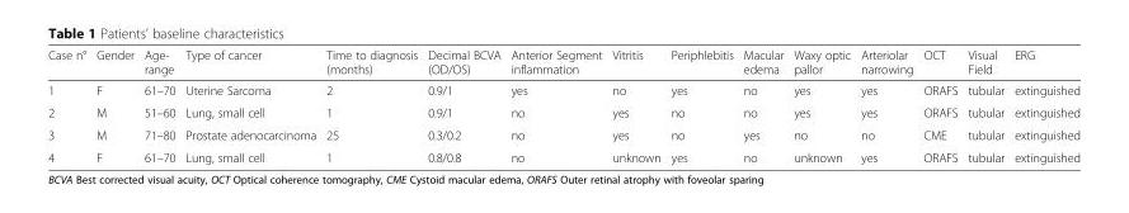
<table><thead><tr><td>Case n°</td><td>Gender</td><td>Age- range</td><td>Type of cancer</td><td>Time to diagnosis (months)</td><td>Decimal BCVA (OD/OS)</td><td>Anterior Segment inflammation</td><td>Vitritis</td><td>Periphlebitis</td><td>Macular edema</td><td>Waxy optic pallor</td><td>Arteriolar narrowing</td><td>OCT</td><td>Visual Field</td><td>ERG</td></tr></thead><tbody><tr><td>1</td><td>F</td><td>61–70</td><td>Uterine Sarcoma</td><td>2</td><td>0.9/1</td><td>yes</td><td>no</td><td>yes</td><td>no</td><td>yes</td><td>yes</td><td>ORAFS</td><td>tubular</td><td>extinguished</td></tr><tr><td>2</td><td>M</td><td>51–60</td><td>Lung, small cell</td><td>1</td><td>0.9/1</td><td>no</td><td>yes</td><td>no</td><td>no</td><td>yes</td><td>yes</td><td>ORAFS</td><td>tubular</td><td>extinguished</td></tr><tr><td>3</td><td>M</td><td>71–80</td><td>Prostate adenocarcinoma</td><td>25</td><td>0.3/0.2</td><td>no</td><td>yes</td><td>no</td><td>yes</td><td>no</td><td>no</td><td>CME</td><td>tubular</td><td>extinguished</td></tr><tr><td>4</td><td>F</td><td>61–70</td><td>Lung, small cell</td><td>1</td><td>0.8/0.8</td><td>no</td><td>unknown</td><td>yes</td><td>no</td><td>unknown</td><td>yes</td><td>ORAFS</td><td>tubular</td><td>extinguished</td></tr></tbody></table>